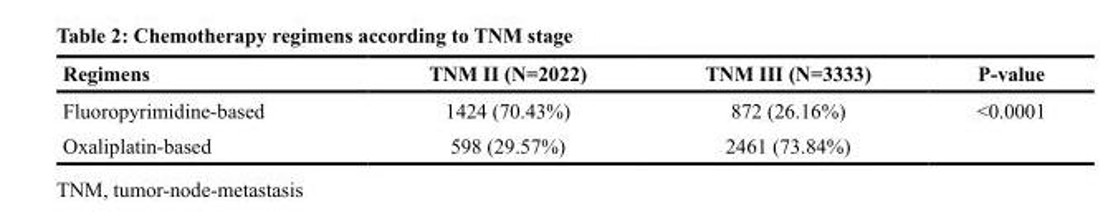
<table><thead><tr><td>Regimens</td><td>TNM II (N=2022)</td><td>TNM III (N=3333)</td><td>P-value</td></tr></thead><tbody><tr><td>Fluoropyrimidine-based</td><td>1424 (70.43%)</td><td>872 (26.16%)</td><td>&lt;0.0001</td></tr><tr><td>Oxaliplatin-based</td><td>598 (29.57%)</td><td>2461 (73.84%)</td><td></td></tr></tbody></table>